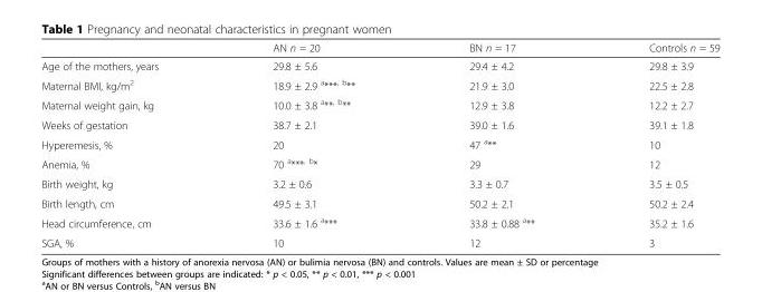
<table><thead><tr><td></td><td>AN n = 20</td><td>BN n = 17</td><td>Controls n = 59</td></tr></thead><tbody><tr><td>Age of the mothers, years</td><td>29.8 ± 5.6</td><td>29.4 ± 4.2</td><td>29.8 ± 3.9</td></tr><tr><td>Maternal BMI, kg/m<sup>2</sup></td><td>18.9 ± 2.9 <sup>a</sup>***<sup>, b</sup>**</td><td>21.9 ± 3.0</td><td>22.5 ± 2.8</td></tr><tr><td>Maternal weight gain, kg</td><td>10.0 ± 3.8 <sup>a</sup>**<sup>, b</sup>**</td><td>12.9 ± 3.8</td><td>12.2 ± 2.7</td></tr><tr><td>Weeks of gestation</td><td>38.7 ± 2.1</td><td>39.0 ± 1.6</td><td>39.1 ± 1.8</td></tr><tr><td>Hyperemesis, %</td><td>20</td><td>47 <sup>a</sup>**</td><td>10</td></tr><tr><td>Anemia, %</td><td>70 <sup>a</sup>***<sup>, b</sup>*</td><td>29</td><td>12</td></tr><tr><td>Birth weight, kg</td><td>3.2 ± 0.6</td><td>3.3 ± 0.7</td><td>3.5 ± 0.5</td></tr><tr><td>Birth length, cm</td><td>49.5 ± 3.1</td><td>50.2 ± 2.1</td><td>50.2 ± 2.4</td></tr><tr><td>Head circumference, cm</td><td>33.6 ± 1.6 <sup>a</sup>***</td><td>33.8 ± 0.88 <sup>a</sup>**</td><td>35.2 ± 1.6</td></tr><tr><td>SGA, %</td><td>10</td><td>12</td><td>3</td></tr></tbody></table>